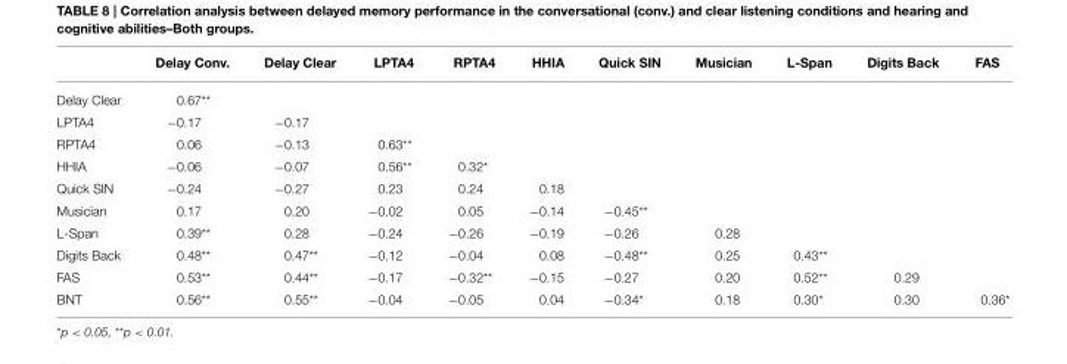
<table><thead><tr><td></td><td>Delay Conv.</td><td>Delay Clear</td><td>LPTA4</td><td>RPTA4</td><td>HHIA</td><td>Quick SIN</td><td>Musician</td><td>L-Span</td><td>Digits Back</td><td>FAS</td></tr></thead><tbody><tr><td>Delay Clear</td><td>0.67**</td><td></td><td></td><td></td><td></td><td></td><td></td><td></td><td></td><td></td></tr><tr><td>LPTA4</td><td>−0.17</td><td>−0.17</td><td></td><td></td><td></td><td></td><td></td><td></td><td></td><td></td></tr><tr><td>RPTA4</td><td>0.06</td><td>−0.13</td><td>0.63**</td><td></td><td></td><td></td><td></td><td></td><td></td><td></td></tr><tr><td>HHIA</td><td>−0.06</td><td>−0.07</td><td>0.56**</td><td>0.32*</td><td></td><td></td><td></td><td></td><td></td><td></td></tr><tr><td>Quick SIN</td><td>−0.24</td><td>−0.27</td><td>0.23</td><td>0.24</td><td>0.18</td><td></td><td></td><td></td><td></td><td></td></tr><tr><td>Musician</td><td>0.17</td><td>0.20</td><td>−0.02</td><td>0.05</td><td>−0.14</td><td>−0.45**</td><td></td><td></td><td></td><td></td></tr><tr><td>L-Span</td><td>0.39**</td><td>0.28</td><td>−0.24</td><td>−0.26</td><td>−0.19</td><td>−0.26</td><td>0.28</td><td></td><td></td><td></td></tr><tr><td>Digits Back</td><td>0.48**</td><td>0.47**</td><td>−0.12</td><td>−0.04</td><td>0.08</td><td>−0.48**</td><td>0.25</td><td>0.43**</td><td></td><td></td></tr><tr><td>FAS</td><td>0.53**</td><td>0.44**</td><td>−0.17</td><td>−0.32**</td><td>−0.15</td><td>−0.27</td><td>0.20</td><td>0.52**</td><td>0.29</td><td></td></tr><tr><td>BNT</td><td>0.56**</td><td>0.55**</td><td>−0.04</td><td>−0.05</td><td>0.04</td><td>−0.34*</td><td>0.18</td><td>0.30*</td><td>0.30</td><td>0.36*</td></tr></tbody></table>